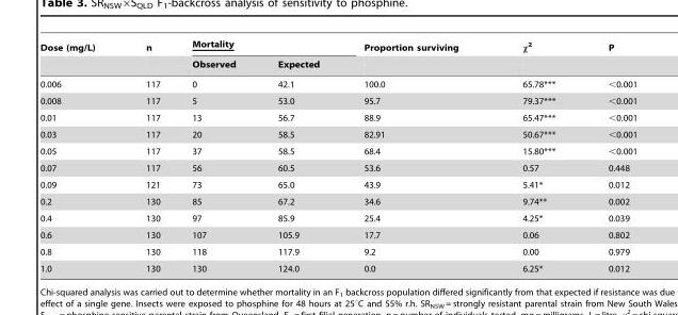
<table><thead><tr><td rowspan="2">Dose (mg/L)</td><td rowspan="2">n</td><td colspan="2">Mortality</td><td rowspan="2">Proportion surviving</td><td rowspan="2">χ<sup>2</sup></td><td rowspan="2">P</td></tr><tr><td>Observed</td><td>Expected</td></tr></thead><tbody><tr><td>0.006</td><td>117</td><td>0</td><td>42.1</td><td>100.0</td><td>65.78***</td><td>&lt;0.001</td></tr><tr><td>0.008</td><td>117</td><td>5</td><td>53.0</td><td>95.7</td><td>79.37***</td><td>&lt;0.001</td></tr><tr><td>0.01</td><td>117</td><td>13</td><td>56.7</td><td>88.9</td><td>65.47***</td><td>&lt;0.001</td></tr><tr><td>0.03</td><td>117</td><td>20</td><td>58.5</td><td>82.91</td><td>50.67***</td><td>&lt;0.001</td></tr><tr><td>0.05</td><td>117</td><td>37</td><td>58.5</td><td>68.4</td><td>15.80***</td><td>&lt;0.001</td></tr><tr><td>0.07</td><td>117</td><td>56</td><td>60.5</td><td>53.6</td><td>0.57</td><td>0.448</td></tr><tr><td>0.09</td><td>121</td><td>73</td><td>65.0</td><td>43.9</td><td>5.41*</td><td>0.012</td></tr><tr><td>0.2</td><td>130</td><td>85</td><td>67.2</td><td>34.6</td><td>9.74**</td><td>0.002</td></tr><tr><td>0.4</td><td>130</td><td>97</td><td>85.9</td><td>25.4</td><td>4.25*</td><td>0.039</td></tr><tr><td>0.6</td><td>130</td><td>107</td><td>105.9</td><td>17.7</td><td>0.06</td><td>0.802</td></tr><tr><td>0.8</td><td>130</td><td>118</td><td>117.9</td><td>9.2</td><td>0.00</td><td>0.979</td></tr><tr><td>1.0</td><td>130</td><td>130</td><td>124.0</td><td>0.0</td><td>6.25*</td><td>0.012</td></tr></tbody></table>